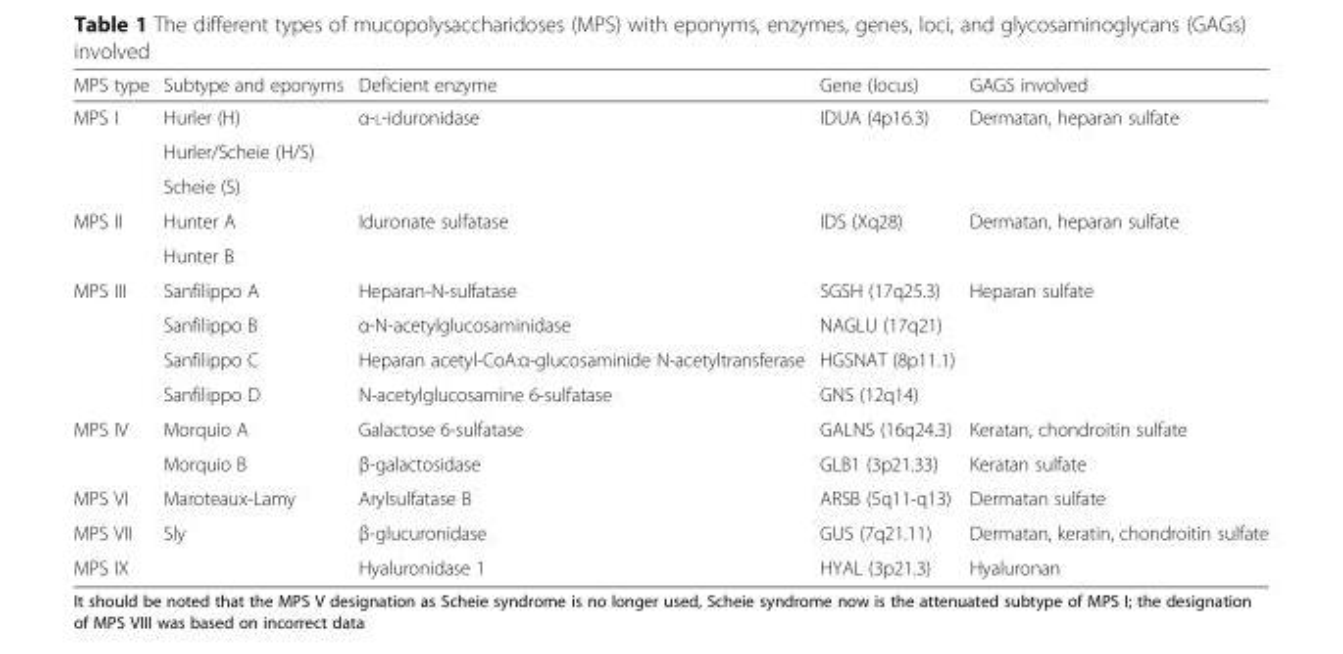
<table><thead><tr><td>MPS type</td><td>Subtype and eponyms</td><td>Deficient enzyme</td><td>Gene (locus)</td><td>GAGS involved</td></tr></thead><tbody><tr><td rowspan="3">MPS I</td><td>Hurler (H)</td><td rowspan="3">α-L-iduronidase</td><td rowspan="3">IDUA (4p16.3)</td><td rowspan="3">Dermatan, heparan sulfate</td></tr><tr><td>Hurler/Scheie (H/S)</td></tr><tr><td>Scheie (S)</td></tr><tr><td rowspan="2">MPS II</td><td>Hunter A</td><td rowspan="2">Iduronate sulfatase</td><td rowspan="2">IDS (Xq28)</td><td rowspan="2">Dermatan, heparan sulfate</td></tr><tr><td>Hunter B</td></tr><tr><td rowspan="4">MPS III</td><td>Sanfilippo A</td><td>Heparan-N-sulfatase</td><td>SGSH (17q25.3)</td><td rowspan="4">Heparan sulfate</td></tr><tr><td>Sanfilippo B</td><td>α-N-acetylglucosaminidase</td><td>NAGLU (17q21)</td></tr><tr><td>Sanfilippo C</td><td>Heparan acetyl-CoA:α-glucosaminide N-acetyltransferase</td><td>HGSNAT (8p11.1)</td></tr><tr><td>Sanfilippo D</td><td>N-acetylglucosamine 6-sulfatase</td><td>GNS (12q14)</td></tr><tr><td rowspan="2">MPS IV</td><td>Morquio A</td><td>Galactose 6-sulfatase</td><td>GALNS (16q24.3)</td><td>Keratan, chondroitin sulfate</td></tr><tr><td>Morquio B</td><td>β-galactosidase</td><td>GLB1 (3p21.33)</td><td>Keratan sulfate</td></tr><tr><td>MPS VI</td><td>Maroteaux-Lamy</td><td>Arylsulfatase B</td><td>ARSB (5q11-q13)</td><td>Dermatan sulfate</td></tr><tr><td>MPS VII</td><td>Sly</td><td>β-glucuronidase</td><td>GUS (7q21.11)</td><td>Dermatan, keratin, chondroitin sulfate</td></tr><tr><td>MPS IX</td><td></td><td>Hyaluronidase 1</td><td>HYAL (3p21.3)</td><td>Hyaluronan</td></tr></tbody></table>